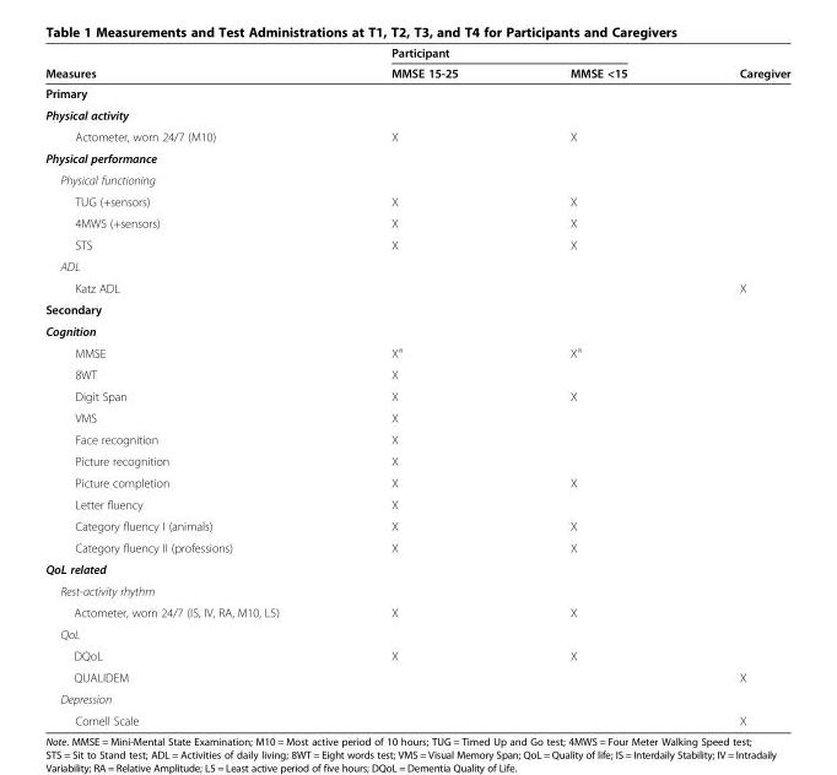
<table><thead><tr><td rowspan="2">Measures</td><td colspan="2">Participant</td><td rowspan="2">Caregiver</td></tr><tr><td>MMSE 15-25</td><td>MMSE &lt;15</td></tr></thead><tbody><tr><td colspan="4">Primary</td></tr><tr><td colspan="4">Physical activity</td></tr><tr><td>Actometer, worn 24/7 (M10)</td><td>X</td><td>X</td><td></td></tr><tr><td colspan="4">Physical performance</td></tr><tr><td colspan="4">Physical functioning</td></tr><tr><td>TUG (+sensors)</td><td>X</td><td>X</td><td></td></tr><tr><td>4MWS (+sensors)</td><td>X</td><td>X</td><td></td></tr><tr><td>STS</td><td>X</td><td>X</td><td></td></tr><tr><td colspan="4">ADL</td></tr><tr><td>Katz ADL</td><td></td><td></td><td>X</td></tr><tr><td colspan="4">Secondary</td></tr><tr><td colspan="4">Cognition</td></tr><tr><td>MMSE</td><td>X<sup>a</sup></td><td>X<sup>a</sup></td><td></td></tr><tr><td>8WT</td><td>X</td><td></td><td></td></tr><tr><td>Digit Span</td><td>X</td><td>X</td><td></td></tr><tr><td>VMS</td><td>X</td><td></td><td></td></tr><tr><td>Face recognition</td><td>X</td><td></td><td></td></tr><tr><td>Picture recognition</td><td>X</td><td></td><td></td></tr><tr><td>Picture completion</td><td>X</td><td>X</td><td></td></tr><tr><td>Letter fluency</td><td>X</td><td></td><td></td></tr><tr><td>Category fluency I (animals)</td><td>X</td><td>X</td><td></td></tr><tr><td>Category fluency II (professions)</td><td>X</td><td>X</td><td></td></tr><tr><td colspan="4">QoL related</td></tr><tr><td colspan="4">Rest-activity rhythm</td></tr><tr><td>Actometer, worn 24/7 (IS, IV, RA, M10, L5)</td><td>X</td><td>X</td><td></td></tr><tr><td colspan="4">QoL</td></tr><tr><td>DQoL</td><td>X</td><td>X</td><td></td></tr><tr><td>QUALIDEM</td><td></td><td></td><td>X</td></tr><tr><td colspan="4">Depression</td></tr><tr><td>Cornell Scale</td><td></td><td></td><td>X</td></tr></tbody></table>